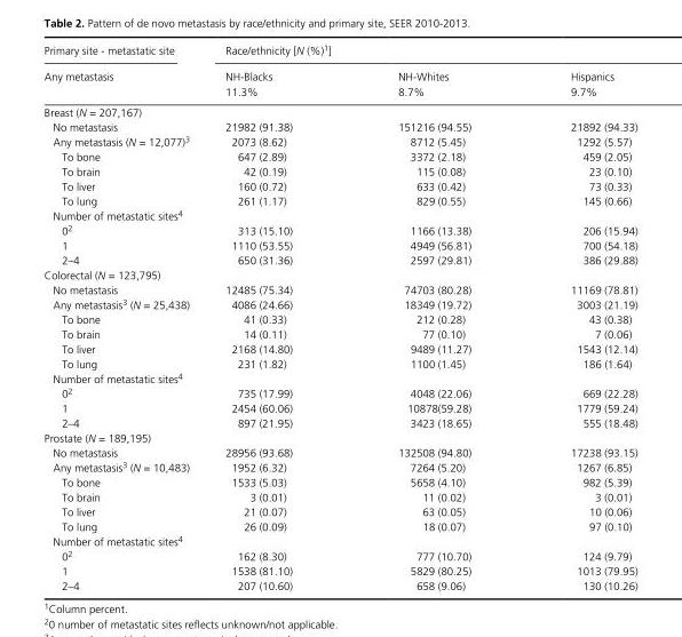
<table><thead><tr><td rowspan="2">Primary site - metastatic site Any metastasis</td><td colspan="3">Race/ethnicity [N (%)1]</td></tr><tr><td>NH- Blacks 11.3%</td><td>NH- Whites 8.7%</td><td>Hispanics 9.7%</td></tr></thead><tbody><tr><td colspan="4">Breast (N = 207,167)</td></tr><tr><td>No metastasis</td><td>21982 (91.38)</td><td>151216 (94.55)</td><td>21892 (94.33)</td></tr><tr><td>Any metastasis (N = 12,077)3</td><td>2073 (8.62)</td><td>8712 (5.45)</td><td>1292 (5.57)</td></tr><tr><td>To bone</td><td>647 (2.89)</td><td>3372 (2.18)</td><td>459 (2.05)</td></tr><tr><td>To brain</td><td>42 (0.19)</td><td>115 (0.08)</td><td>23 (0.10)</td></tr><tr><td>To liver</td><td>160 (0.72)</td><td>633 (0.42)</td><td>73 (0.33)</td></tr><tr><td>To lung</td><td>261 (1.17)</td><td>829 (0.55)</td><td>145 (0.66)</td></tr><tr><td colspan="4">Number of metastatic sites4</td></tr><tr><td>02</td><td>313 (15.10)</td><td>1166 (13.38)</td><td>206 (15.94)</td></tr><tr><td>1</td><td>1110 (53.55)</td><td>4949 (56.81)</td><td>700 (54.18)</td></tr><tr><td>2–4</td><td>650 (31.36)</td><td>2597 (29.81)</td><td>386 (29.88)</td></tr><tr><td colspan="4">Colorectal (N = 123,795)</td></tr><tr><td>No metastasis</td><td>12485 (75.34)</td><td>74703 (80.28)</td><td>11169 (78.81)</td></tr><tr><td>Any metastasis3 (N = 25,438)</td><td>4086 (24.66)</td><td>18349 (19.72)</td><td>3003 (21.19)</td></tr><tr><td>To bone</td><td>41 (0.33)</td><td>212 (0.28)</td><td>43 (0.38)</td></tr><tr><td>To brain</td><td>14 (0.11)</td><td>77 (0.10)</td><td>7 (0.06)</td></tr><tr><td>To liver</td><td>2168 (14.80)</td><td>9489 (11.27)</td><td>1543 (12.14)</td></tr><tr><td>To lung</td><td>231 (1.82)</td><td>1100 (1.45)</td><td>186 (1.64)</td></tr><tr><td colspan="4">Number of metastatic sites4</td></tr><tr><td>02</td><td>735 (17.99)</td><td>4048 (22.06)</td><td>669 (22.28)</td></tr><tr><td>1</td><td>2454 (60.06)</td><td>10878(59.28)</td><td>1779 (59.24)</td></tr><tr><td>2–4</td><td>897 (21.95)</td><td>3423 (18.65)</td><td>555 (18.48)</td></tr><tr><td colspan="4">Prostate (N = 189,195)</td></tr><tr><td>No metastasis</td><td>28956 (93.68)</td><td>132508 (94.80)</td><td>17238 (93.15)</td></tr><tr><td>Any metastasis3 (N = 10,483)</td><td>1952 (6.32)</td><td>7264 (5.20)</td><td>1267 (6.85)</td></tr><tr><td>To bone</td><td>1533 (5.03)</td><td>5658 (4.10)</td><td>982 (5.39)</td></tr><tr><td>To brain</td><td>3 (0.01)</td><td>11 (0.02)</td><td>3 (0.01)</td></tr><tr><td>To liver</td><td>21 (0.07)</td><td>63 (0.05)</td><td>10 (0.06)</td></tr><tr><td>To lung</td><td>26 (0.09)</td><td>18 (0.07)</td><td>97 (0.10)</td></tr><tr><td colspan="4">Number of metastatic sites4</td></tr><tr><td>02</td><td>162 (8.30)</td><td>777 (10.70)</td><td>124 (9.79)</td></tr><tr><td>1</td><td>1538 (81.10)</td><td>5829 (80.25)</td><td>1013 (79.95)</td></tr><tr><td>2–4</td><td>207 (10.60)</td><td>658 (9.06)</td><td>130 (10.26)</td></tr></tbody></table>